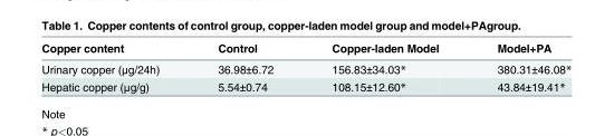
<table><thead><tr><td>Copper content</td><td>Control</td><td>Copper-laden Model</td><td>Model+PA</td></tr></thead><tbody><tr><td>Urinary copper (μg/24h)</td><td>36.98±6.72</td><td>156.83±34.03*</td><td>380.31±46.08*</td></tr><tr><td>Hepatic copper (μg/g)</td><td>5.54±0.74</td><td>108.15±12.60*</td><td>43.84±19.41*</td></tr></tbody></table>